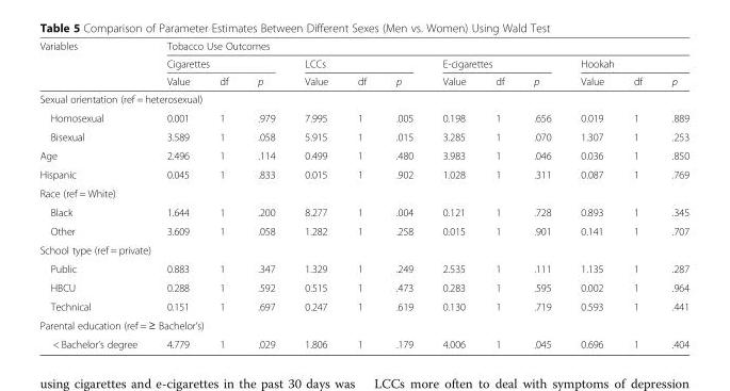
<table><thead><tr><td rowspan="3">Variables</td><td colspan="12">Tobacco Use Outcomes</td></tr><tr><td colspan="3">Cigarettes</td><td colspan="3">LCCs</td><td colspan="3">E-cigarettes</td><td colspan="3">Hookah</td></tr><tr><td>Value</td><td>df</td><td>p</td><td>Value</td><td>df</td><td>p</td><td>Value</td><td>df</td><td>p</td><td>Value</td><td>df</td><td>p</td></tr></thead><tbody><tr><td colspan="13">Sexual orientation (ref = heterosexual)</td></tr><tr><td>Homosexual</td><td>0.001</td><td>1</td><td>.979</td><td>7.995</td><td>1</td><td>.005</td><td>0.198</td><td>1</td><td>.656</td><td>0.019</td><td>1</td><td>.889</td></tr><tr><td>Bisexual</td><td>3.589</td><td>1</td><td>.058</td><td>5.915</td><td>1</td><td>.015</td><td>3.285</td><td>1</td><td>.070</td><td>1.307</td><td>1</td><td>.253</td></tr><tr><td>Age</td><td>2.496</td><td>1</td><td>.114</td><td>0.499</td><td>1</td><td>.480</td><td>3.983</td><td>1</td><td>.046</td><td>0.036</td><td>1</td><td>.850</td></tr><tr><td>Hispanic</td><td>0.045</td><td>1</td><td>.833</td><td>0.015</td><td>1</td><td>.902</td><td>1.028</td><td>1</td><td>.311</td><td>0.087</td><td>1</td><td>.769</td></tr><tr><td colspan="13">Race (ref = White)</td></tr><tr><td>Black</td><td>1.644</td><td>1</td><td>.200</td><td>8.277</td><td>1</td><td>.004</td><td>0.121</td><td>1</td><td>.728</td><td>0.893</td><td>1</td><td>.345</td></tr><tr><td>Other</td><td>3.609</td><td>1</td><td>.058</td><td>1.282</td><td>1</td><td>.258</td><td>0.015</td><td>1</td><td>.901</td><td>0.141</td><td>1</td><td>.707</td></tr><tr><td colspan="13">School type (ref = private)</td></tr><tr><td>Public</td><td>0.883</td><td>1</td><td>.347</td><td>1.329</td><td>1</td><td>.249</td><td>2.535</td><td>1</td><td>.111</td><td>1.135</td><td>1</td><td>.287</td></tr><tr><td>HBCU</td><td>0.288</td><td>1</td><td>.592</td><td>0.515</td><td>1</td><td>.473</td><td>0.283</td><td>1</td><td>.595</td><td>0.002</td><td>1</td><td>.964</td></tr><tr><td>Technical</td><td>0.151</td><td>1</td><td>.697</td><td>0.247</td><td>1</td><td>.619</td><td>0.130</td><td>1</td><td>.719</td><td>0.593</td><td>1</td><td>.441</td></tr><tr><td colspan="13">Parental education (ref = ≥ Bachelor’s)</td></tr><tr><td>&lt; Bachelor’s degree</td><td>4.779</td><td>1</td><td>.029</td><td>1.806</td><td>1</td><td>.179</td><td>4.006</td><td>1</td><td>.045</td><td>0.696</td><td>1</td><td>.404</td></tr></tbody></table>